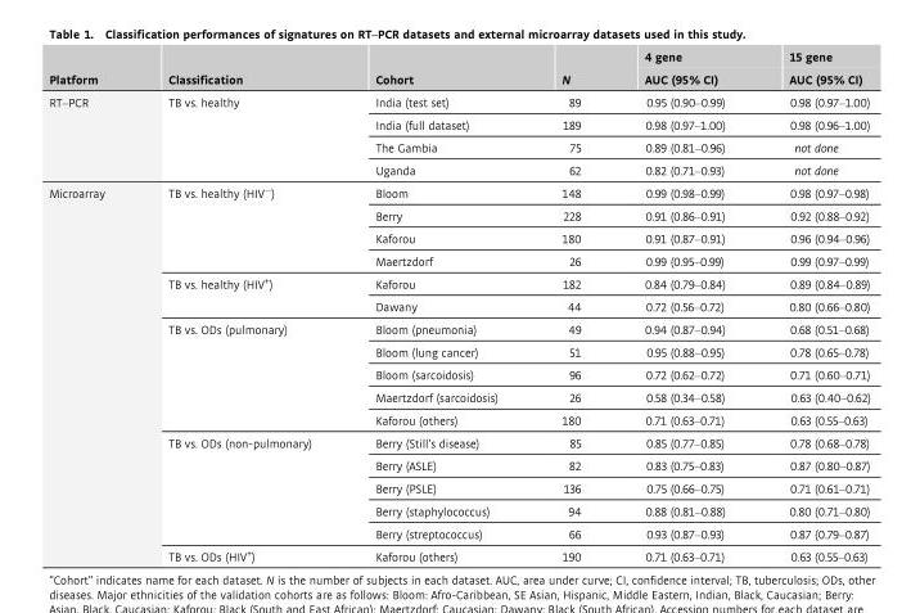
<table><thead><tr><td rowspan="2">Platform</td><td rowspan="2">Classification</td><td rowspan="2">Cohort</td><td rowspan="2">N</td><td rowspan="2">4 gene AUC (95% CI)</td><td rowspan="2">15 gene AUC (95% CI)</td></tr><tr></tr></thead><tbody><tr><td rowspan="4">RT–PCR</td><td rowspan="4">TB vs. healthy</td><td>India (test set)</td><td>89</td><td>0.95 (0.90–0.99)</td><td>0.98 (0.97–1.00)</td></tr><tr><td>India (full dataset)</td><td>189</td><td>0.98 (0.97–1.00)</td><td>0.98 (0.96–1.00)</td></tr><tr><td>The Gambia</td><td>75</td><td>0.89 (0.81–0.96)</td><td>not done</td></tr><tr><td>Uganda</td><td>62</td><td>0.82 (0.71–0.93)</td><td>not done</td></tr><tr><td rowspan="17">Microarray</td><td rowspan="4">TB vs. healthy (HIV<sup>−</sup>)</td><td>Bloom</td><td>148</td><td>0.99 (0.98–0.99)</td><td>0.98 (0.97–0.98)</td></tr><tr><td>Berry</td><td>228</td><td>0.91 (0.86–0.91)</td><td>0.92 (0.88–0.92)</td></tr><tr><td>Kaforou</td><td>180</td><td>0.91 (0.87–0.91)</td><td>0.96 (0.94–0.96)</td></tr><tr><td>Maertzdorf</td><td>26</td><td>0.99 (0.95–0.99)</td><td>0.99 (0.97–0.99)</td></tr><tr><td rowspan="2">TB vs. healthy (HIV<sup>+</sup>)</td><td>Kaforou</td><td>182</td><td>0.84 (0.79–0.84)</td><td>0.89 (0.84–0.89)</td></tr><tr><td>Dawany</td><td>44</td><td>0.72 (0.56–0.72)</td><td>0.80 (0.66–0.80)</td></tr><tr><td rowspan="5">TB vs. ODs (pulmonary)</td><td>Bloom (pneumonia)</td><td>49</td><td>0.94 (0.87–0.94)</td><td>0.68 (0.51–0.68)</td></tr><tr><td>Bloom (lung cancer)</td><td>51</td><td>0.95 (0.88–0.95)</td><td>0.78 (0.65–0.78)</td></tr><tr><td>Bloom (sarcoidosis)</td><td>96</td><td>0.72 (0.62–0.72)</td><td>0.71 (0.60–0.71)</td></tr><tr><td>Maertzdorf (sarcoidosis)</td><td>26</td><td>0.58 (0.34–0.58)</td><td>0.63 (0.40–0.62)</td></tr><tr><td>Kaforou (others)</td><td>180</td><td>0.71 (0.63–0.71)</td><td>0.63 (0.55–0.63)</td></tr><tr><td rowspan="5">TB vs. ODs (non-pulmonary)</td><td>Berry (Still’s disease)</td><td>85</td><td>0.85 (0.77–0.85)</td><td>0.78 (0.68–0.78)</td></tr><tr><td>Berry (ASLE)</td><td>82</td><td>0.83 (0.75–0.83)</td><td>0.87 (0.80–0.87)</td></tr><tr><td>Berry (PSLE)</td><td>136</td><td>0.75 (0.66–0.75)</td><td>0.71 (0.61–0.71)</td></tr><tr><td>Berry (staphylococcus)</td><td>94</td><td>0.88 (0.81–0.88)</td><td>0.80 (0.71–0.80)</td></tr><tr><td>Berry (streptococcus)</td><td>66</td><td>0.93 (0.87–0.93)</td><td>0.87 (0.79–0.87)</td></tr><tr><td>TB vs. ODs (HIV<sup>+</sup>)</td><td>Kaforou (others)</td><td>190</td><td>0.71 (0.63–0.71)</td><td>0.63 (0.55–0.63)</td></tr></tbody></table>